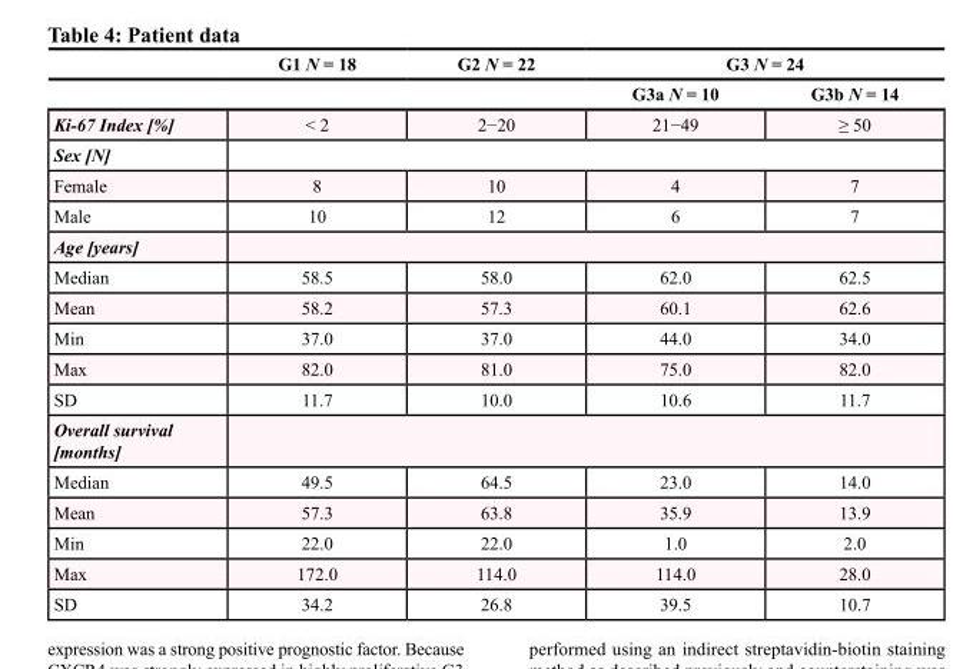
<table><thead><tr><td rowspan="2"></td><td rowspan="2">G1 N = 18</td><td rowspan="2">G2 N = 22</td><td colspan="2">G3 N = 24</td></tr><tr><td>G3a N = 10</td><td>G3b N = 14</td></tr></thead><tbody><tr><td>Ki-67 Index [%]</td><td>&lt; 2</td><td>2−20</td><td>21−49</td><td>≥ 50</td></tr><tr><td colspan="5">Sex [N]</td></tr><tr><td>Female</td><td>8</td><td>10</td><td>4</td><td>7</td></tr><tr><td>Male</td><td>10</td><td>12</td><td>6</td><td>7</td></tr><tr><td colspan="5">Age [years]</td></tr><tr><td>Median</td><td>58.5</td><td>58.0</td><td>62.0</td><td>62.5</td></tr><tr><td>Mean</td><td>58.2</td><td>57.3</td><td>60.1</td><td>62.6</td></tr><tr><td>Min</td><td>37.0</td><td>37.0</td><td>44.0</td><td>34.0</td></tr><tr><td>Max</td><td>82.0</td><td>81.0</td><td>75.0</td><td>82.0</td></tr><tr><td>SD</td><td>11.7</td><td>10.0</td><td>10.6</td><td>11.7</td></tr><tr><td colspan="5">Overall survival [months]</td></tr><tr><td>Median</td><td>49.5</td><td>64.5</td><td>23.0</td><td>14.0</td></tr><tr><td>Mean</td><td>57.3</td><td>63.8</td><td>35.9</td><td>13.9</td></tr><tr><td>Min</td><td>22.0</td><td>22.0</td><td>1.0</td><td>2.0</td></tr><tr><td>Max</td><td>172.0</td><td>114.0</td><td>114.0</td><td>28.0</td></tr><tr><td>SD</td><td>34.2</td><td>26.8</td><td>39.5</td><td>10.7</td></tr></tbody></table>